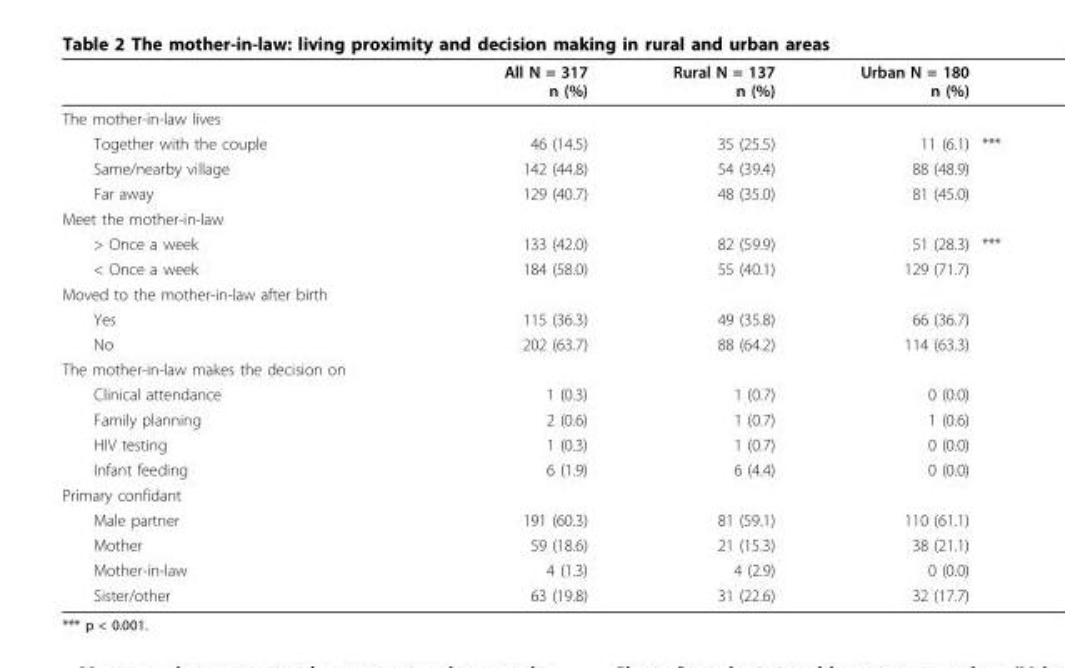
<table><thead><tr><td></td><td>All N = 317 n (%)</td><td>Rural N = 137 n (%)</td><td>Urban N = 180 n (%)</td><td></td></tr></thead><tbody><tr><td colspan="5">The mother-in-law lives</td></tr><tr><td>Together with the couple</td><td>46 (14.5)</td><td>35 (25.5)</td><td>11 (6.1)</td><td>***</td></tr><tr><td>Same/nearby village</td><td>142 (44.8)</td><td>54 (39.4)</td><td>88 (48.9)</td><td></td></tr><tr><td>Far away</td><td>129 (40.7)</td><td>48 (35.0)</td><td>81 (45.0)</td><td></td></tr><tr><td colspan="5">Meet the mother-in-law</td></tr><tr><td>&gt; Once a week</td><td>133 (42.0)</td><td>82 (59.9)</td><td>51 (28.3)</td><td>***</td></tr><tr><td>&lt; Once a week</td><td>184 (58.0)</td><td>55 (40.1)</td><td>129 (71.7)</td><td></td></tr><tr><td colspan="5">Moved to the mother-in-law after birth</td></tr><tr><td>Yes</td><td>115 (36.3)</td><td>49 (35.8)</td><td>66 (36.7)</td><td></td></tr><tr><td>No</td><td>202 (63.7)</td><td>88 (64.2)</td><td>114 (63.3)</td><td></td></tr><tr><td colspan="5">The mother-in-law makes the decision on</td></tr><tr><td>Clinical attendance</td><td>1 (0.3)</td><td>1 (0.7)</td><td>0 (0.0)</td><td></td></tr><tr><td>Family planning</td><td>2 (0.6)</td><td>1 (0.7)</td><td>1 (0.6)</td><td></td></tr><tr><td>HIV testing</td><td>1 (0.3)</td><td>1 (0.7)</td><td>0 (0.0)</td><td></td></tr><tr><td>Infant feeding</td><td>6 (1.9)</td><td>6 (4.4)</td><td>0 (0.0)</td><td></td></tr><tr><td colspan="5">Primary confidant</td></tr><tr><td>Male partner</td><td>191 (60.3)</td><td>81 (59.1)</td><td>110 (61.1)</td><td></td></tr><tr><td>Mother</td><td>59 (18.6)</td><td>21 (15.3)</td><td>38 (21.1)</td><td></td></tr><tr><td>Mother-in-law</td><td>4 (1.3)</td><td>4 (2.9)</td><td>0 (0.0)</td><td></td></tr><tr><td>Sister/other</td><td>63 (19.8)</td><td>31 (22.6)</td><td>32 (17.7)</td><td></td></tr></tbody></table>